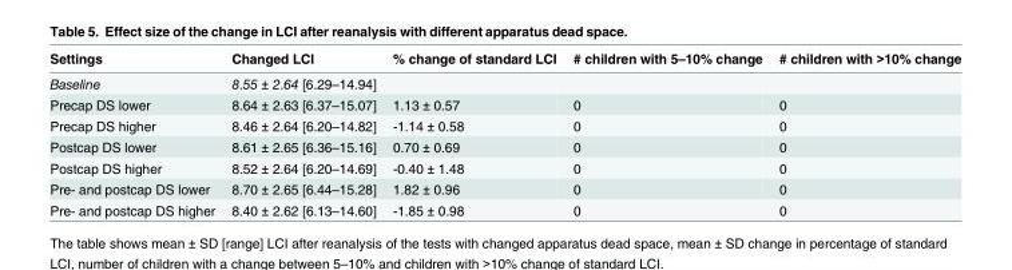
<table><thead><tr><td>Settings</td><td>Changed LCI</td><td>% change of standard LCI</td><td># children with 5–10% change</td><td># children with &gt;10% change</td></tr></thead><tbody><tr><td>Baseline</td><td>8.55 ± 2.64 [6.29–14.94]</td><td></td><td></td><td></td></tr><tr><td>Precap DS lower</td><td>8.64 ± 2.63 [6.37–15.07]</td><td>1.13 ± 0.57</td><td>0</td><td>0</td></tr><tr><td>Precap DS higher</td><td>8.46 ± 2.64 [6.20–14.82]</td><td>-1.14 ± 0.58</td><td>0</td><td>0</td></tr><tr><td>Postcap DS lower</td><td>8.61 ± 2.65 [6.36–15.16]</td><td>0.70 ± 0.69</td><td>0</td><td>0</td></tr><tr><td>Postcap DS higher</td><td>8.52 ± 2.64 [6.20–14.69]</td><td>-0.40 ± 1.48</td><td>0</td><td>0</td></tr><tr><td>Pre- and postcap DS lower</td><td>8.70 ± 2.65 [6.44–15.28]</td><td>1.82 ± 0.96</td><td>0</td><td>0</td></tr><tr><td>Pre- and postcap DS higher</td><td>8.40 ± 2.62 [6.13–14.60]</td><td>-1.85 ± 0.98</td><td>0</td><td>0</td></tr></tbody></table>